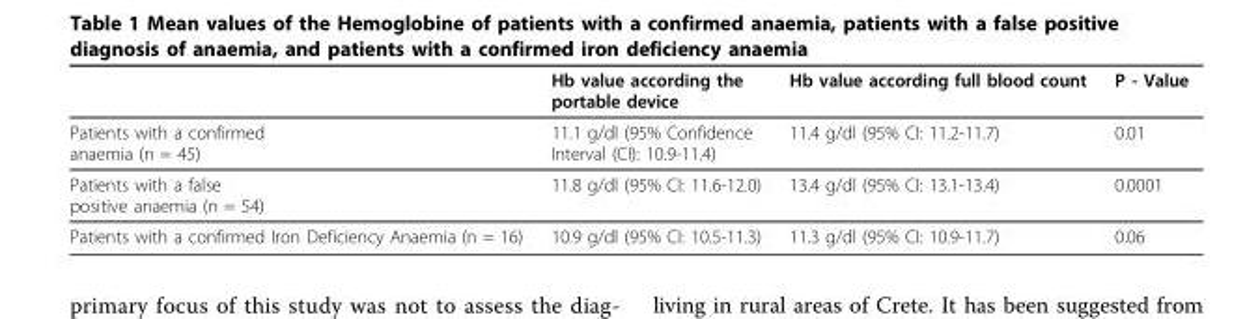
<table><thead><tr><td></td><td>Hb value according the portable device</td><td>Hb value according full blood count</td><td>P - Value</td></tr></thead><tbody><tr><td>Patients with a confirmed anaemia (n = 45)</td><td>11.1 g/dl (95% Confidence Interval (CI): 10.9-11.4)</td><td>11.4 g/dl (95% CI: 11.2-11.7)</td><td>0.01</td></tr><tr><td>Patients with a false positive anaemia (n = 54)</td><td>11.8 g/dl (95% CI: 11.6-12.0)</td><td>13.4 g/dl (95% CI: 13.1-13.4)</td><td>0.0001</td></tr><tr><td>Patients with a confirmed Iron Deficiency Anaemia (n = 16)</td><td>10.9 g/dl (95% CI: 10.5-11.3)</td><td>11.3 g/dl (95% CI: 10.9-11.7)</td><td>0.06</td></tr></tbody></table>